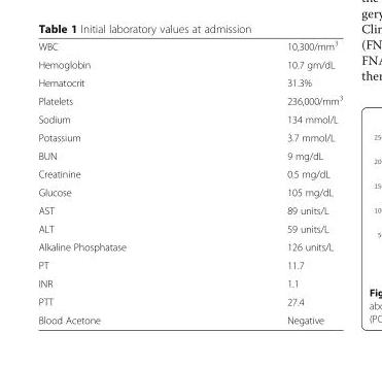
<table><tbody><tr><td>WBC</td><td>10,300/mm<sup>3</sup></td></tr><tr><td>Hemoglobin</td><td>10.7 gm/dL</td></tr><tr><td>Hematocrit</td><td>31.3%</td></tr><tr><td>Platelets</td><td>236,000/mm<sup>3</sup></td></tr><tr><td>Sodium</td><td>134 mmol/L</td></tr><tr><td>Potassium</td><td>3.7 mmol/L</td></tr><tr><td>BUN</td><td>9 mg/dL</td></tr><tr><td>Creatinine</td><td>0.5 mg/dL</td></tr><tr><td>Glucose</td><td>105 mg/dL</td></tr><tr><td>AST</td><td>89 units/L</td></tr><tr><td>ALT</td><td>59 units/L</td></tr><tr><td>Alkaline Phosphatase</td><td>126 units/L</td></tr><tr><td>PT</td><td>11.7</td></tr><tr><td>INR</td><td>1.1</td></tr><tr><td>PTT</td><td>27.4</td></tr><tr><td>Blood Acetone</td><td>Negative</td></tr></tbody></table>